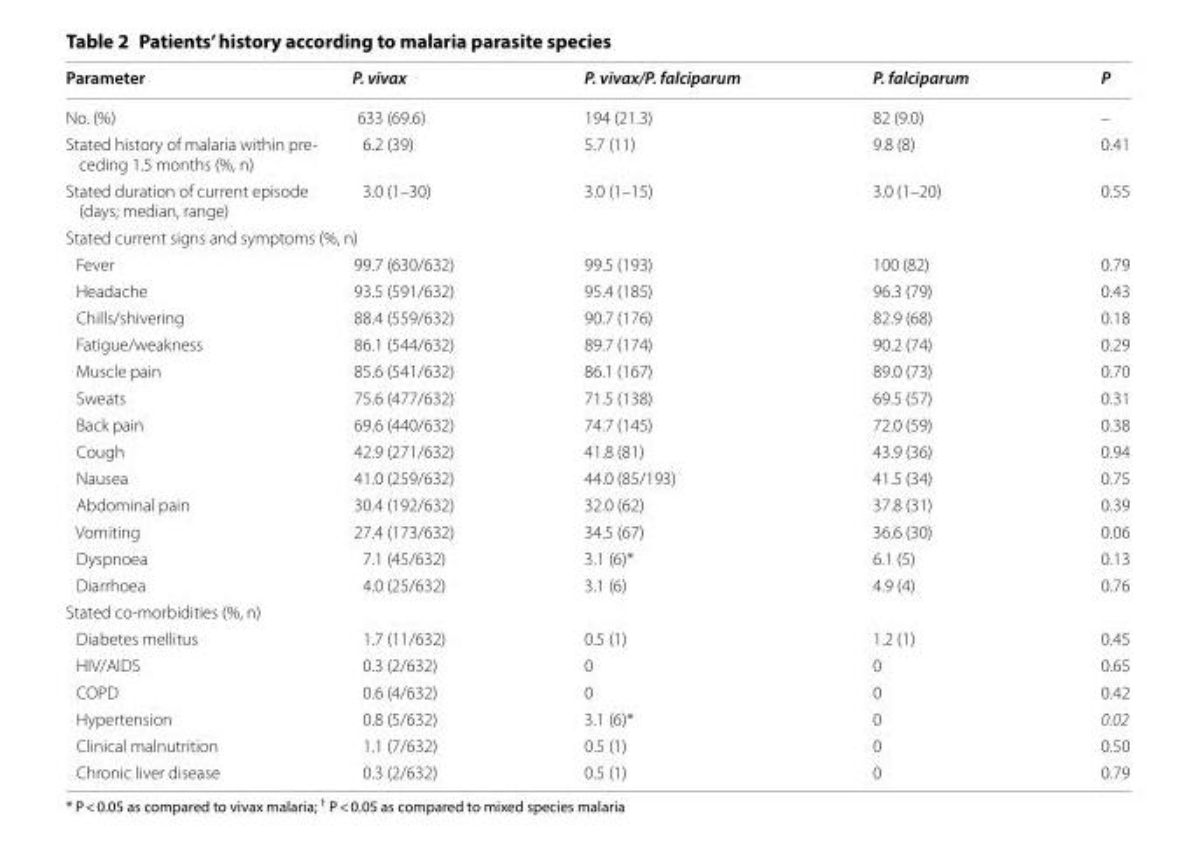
<table><thead><tr><td>Parameter</td><td>P. vivax</td><td>P. vivax/P. falciparum</td><td>P. falciparum</td><td>P</td></tr></thead><tbody><tr><td>No. (%)</td><td>633 (69.6)</td><td>194 (21.3)</td><td>82 (9.0)</td><td>–</td></tr><tr><td>Stated history of malaria within pre- ceding 1.5 months (%, n)</td><td>6.2 (39)</td><td>5.7 (11)</td><td>9.8 (8)</td><td>0.41</td></tr><tr><td>Stated duration of current episode (days; median, range)</td><td>3.0 (1–30)</td><td>3.0 (1–15)</td><td>3.0 (1–20)</td><td>0.55</td></tr><tr><td colspan="5">Stated current signs and symptoms (%, n)</td></tr><tr><td>Fever</td><td>99.7 (630/632)</td><td>99.5 (193)</td><td>100 (82)</td><td>0.79</td></tr><tr><td>Headache</td><td>93.5 (591/632)</td><td>95.4 (185)</td><td>96.3 (79)</td><td>0.43</td></tr><tr><td>Chills/shivering</td><td>88.4 (559/632)</td><td>90.7 (176)</td><td>82.9 (68)</td><td>0.18</td></tr><tr><td>Fatigue/weakness</td><td>86.1 (544/632)</td><td>89.7 (174)</td><td>90.2 (74)</td><td>0.29</td></tr><tr><td>Muscle pain</td><td>85.6 (541/632)</td><td>86.1 (167)</td><td>89.0 (73)</td><td>0.70</td></tr><tr><td>Sweats</td><td>75.6 (477/632)</td><td>71.5 (138)</td><td>69.5 (57)</td><td>0.31</td></tr><tr><td>Back pain</td><td>69.6 (440/632)</td><td>74.7 (145)</td><td>72.0 (59)</td><td>0.38</td></tr><tr><td>Cough</td><td>42.9 (271/632)</td><td>41.8 (81)</td><td>43.9 (36)</td><td>0.94</td></tr><tr><td>Nausea</td><td>41.0 (259/632)</td><td>44.0 (85/193)</td><td>41.5 (34)</td><td>0.75</td></tr><tr><td>Abdominal pain</td><td>30.4 (192/632)</td><td>32.0 (62)</td><td>37.8 (31)</td><td>0.39</td></tr><tr><td>Vomiting</td><td>27.4 (173/632)</td><td>34.5 (67)</td><td>36.6 (30)</td><td>0.06</td></tr><tr><td>Dyspnoea</td><td>7.1 (45/632)</td><td>3.1 (6)*</td><td>6.1 (5)</td><td>0.13</td></tr><tr><td>Diarrhoea</td><td>4.0 (25/632)</td><td>3.1 (6)</td><td>4.9 (4)</td><td>0.76</td></tr><tr><td colspan="5">Stated co-morbidities (%, n)</td></tr><tr><td>Diabetes mellitus</td><td>1.7 (11/632)</td><td>0.5 (1)</td><td>1.2 (1)</td><td>0.45</td></tr><tr><td>HIV/AIDS</td><td>0.3 (2/632)</td><td>0</td><td>0</td><td>0.65</td></tr><tr><td>COPD</td><td>0.6 (4/632)</td><td>0</td><td>0</td><td>0.42</td></tr><tr><td>Hypertension</td><td>0.8 (5/632)</td><td>3.1 (6)*</td><td>0</td><td>0.02</td></tr><tr><td>Clinical malnutrition</td><td>1.1 (7/632)</td><td>0.5 (1)</td><td>0</td><td>0.50</td></tr><tr><td>Chronic liver disease</td><td>0.3 (2/632)</td><td>0.5 (1)</td><td>0</td><td>0.79</td></tr></tbody></table>